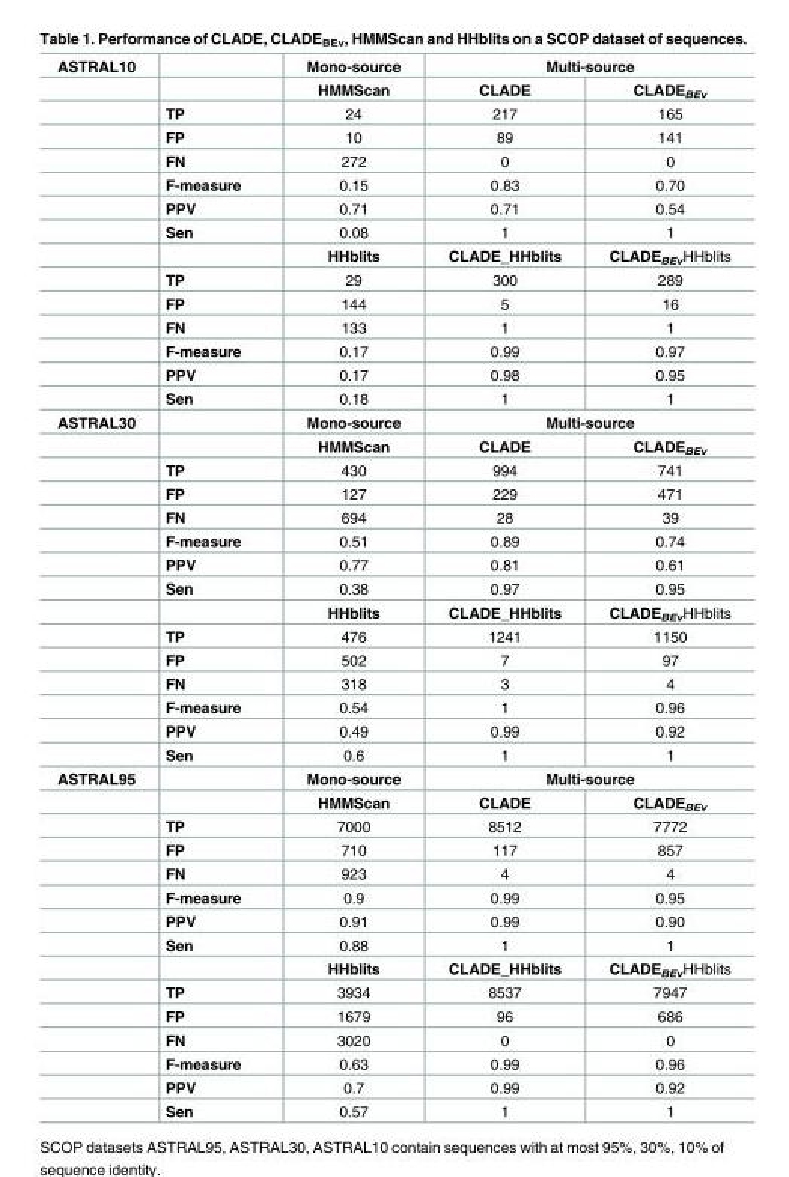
<table><tbody><tr><td rowspan="15">ASTRAL10</td><td></td><td>Mono-source</td><td colspan="2">Multi-source</td></tr><tr><td></td><td>HMMScan</td><td>CLADE</td><td>CLADE<sub>BEv</sub></td></tr><tr><td>TP</td><td>24</td><td>217</td><td>165</td></tr><tr><td>FP</td><td>10</td><td>89</td><td>141</td></tr><tr><td>FN</td><td>272</td><td>0</td><td>0</td></tr><tr><td>F-measure</td><td>0.15</td><td>0.83</td><td>0.70</td></tr><tr><td>PPV</td><td>0.71</td><td>0.71</td><td>0.54</td></tr><tr><td>Sen</td><td>0.08</td><td>1</td><td>1</td></tr><tr><td></td><td>HHblits</td><td>CLADE_HHblits</td><td>CLADE<sub>BEv</sub>HHblits</td></tr><tr><td>TP</td><td>29</td><td>300</td><td>289</td></tr><tr><td>FP</td><td>144</td><td>5</td><td>16</td></tr><tr><td>FN</td><td>133</td><td>1</td><td>1</td></tr><tr><td>F-measure</td><td>0.17</td><td>0.99</td><td>0.97</td></tr><tr><td>PPV</td><td>0.17</td><td>0.98</td><td>0.95</td></tr><tr><td>Sen</td><td>0.18</td><td>1</td><td>1</td></tr><tr><td rowspan="15">ASTRAL30</td><td></td><td>Mono-source</td><td colspan="2">Multi-source</td></tr><tr><td></td><td>HMMScan</td><td>CLADE</td><td>CLADE<sub>BEv</sub></td></tr><tr><td>TP</td><td>430</td><td>994</td><td>741</td></tr><tr><td>FP</td><td>127</td><td>229</td><td>471</td></tr><tr><td>FN</td><td>694</td><td>28</td><td>39</td></tr><tr><td>F-measure</td><td>0.51</td><td>0.89</td><td>0.74</td></tr><tr><td>PPV</td><td>0.77</td><td>0.81</td><td>0.61</td></tr><tr><td>Sen</td><td>0.38</td><td>0.97</td><td>0.95</td></tr><tr><td></td><td>HHblits</td><td>CLADE_HHblits</td><td>CLADE<sub>BEv</sub>HHblits</td></tr><tr><td>TP</td><td>476</td><td>1241</td><td>1150</td></tr><tr><td>FP</td><td>502</td><td>7</td><td>97</td></tr><tr><td>FN</td><td>318</td><td>3</td><td>4</td></tr><tr><td>F-measure</td><td>0.54</td><td>1</td><td>0.96</td></tr><tr><td>PPV</td><td>0.49</td><td>0.99</td><td>0.92</td></tr><tr><td>Sen</td><td>0.6</td><td>1</td><td>1</td></tr><tr><td rowspan="15">ASTRAL95</td><td></td><td>Mono-source</td><td colspan="2">Multi-source</td></tr><tr><td></td><td>HMMScan</td><td>CLADE</td><td>CLADE<sub>BEv</sub></td></tr><tr><td>TP</td><td>7000</td><td>8512</td><td>7772</td></tr><tr><td>FP</td><td>710</td><td>117</td><td>857</td></tr><tr><td>FN</td><td>923</td><td>4</td><td>4</td></tr><tr><td>F-measure</td><td>0.9</td><td>0.99</td><td>0.95</td></tr><tr><td>PPV</td><td>0.91</td><td>0.99</td><td>0.90</td></tr><tr><td>Sen</td><td>0.88</td><td>1</td><td>1</td></tr><tr><td></td><td>HHblits</td><td>CLADE_HHblits</td><td>CLADE<sub>BEv</sub>HHblits</td></tr><tr><td>TP</td><td>3934</td><td>8537</td><td>7947</td></tr><tr><td>FP</td><td>1679</td><td>96</td><td>686</td></tr><tr><td>FN</td><td>3020</td><td>0</td><td>0</td></tr><tr><td>F-measure</td><td>0.63</td><td>0.99</td><td>0.96</td></tr><tr><td>PPV</td><td>0.7</td><td>0.99</td><td>0.92</td></tr><tr><td>Sen</td><td>0.57</td><td>1</td><td>1</td></tr></tbody></table>